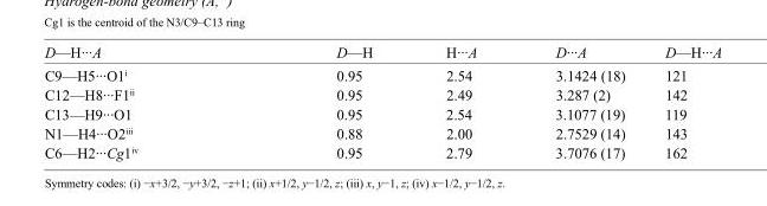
<table><tbody><tr><td>D—H···A</td><td>D—H</td><td>H···A</td><td>D···A</td><td>D—H···A</td></tr><tr><td>C9—H5···O1<sup>i</sup></td><td>0.95</td><td>2.54</td><td>3.1424 (18)</td><td>121</td></tr><tr><td>C12—H8···F1<sup>ii</sup></td><td>0.95</td><td>2.49</td><td>3.287 (2)</td><td>142</td></tr><tr><td>C13—H9···O1</td><td>0.95</td><td>2.54</td><td>3.1077 (19)</td><td>119</td></tr><tr><td>N1—H4···O2<sup>iii</sup></td><td>0.88</td><td>2.00</td><td>2.7529 (14)</td><td>143</td></tr><tr><td>C6—H2···Cg1<sup>iv</sup></td><td>0.95</td><td>2.79</td><td>3.7076 (17)</td><td>162</td></tr></tbody></table>